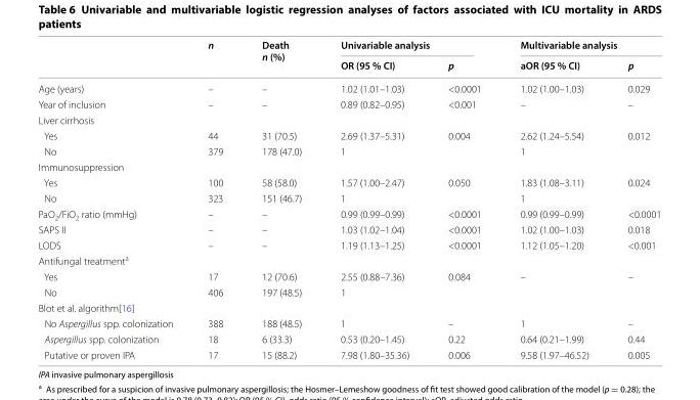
<table><thead><tr><td rowspan="2"></td><td rowspan="2">n</td><td rowspan="2">Death n (%)</td><td colspan="2">Univariable analysis</td><td colspan="2">Multivariable analysis</td></tr><tr><td>OR (95 % CI)</td><td>p</td><td>aOR (95 % CI)</td><td>p</td></tr></thead><tbody><tr><td>Age (years)</td><td>–</td><td>–</td><td>1.02 (1.01–1.03)</td><td>&lt;0.0001</td><td>1.02 (1.00–1.03)</td><td>0.029</td></tr><tr><td>Year of inclusion</td><td>–</td><td>–</td><td>0.89 (0.82–0.95)</td><td>&lt;0.001</td><td>–</td><td>–</td></tr><tr><td colspan="7">Liver cirrhosis</td></tr><tr><td>Yes</td><td>44</td><td>31 (70.5)</td><td>2.69 (1.37–5.31)</td><td>0.004</td><td>2.62 (1.24–5.54)</td><td>0.012</td></tr><tr><td>No</td><td>379</td><td>178 (47.0)</td><td>1</td><td></td><td>1</td><td></td></tr><tr><td colspan="7">Immunosuppression</td></tr><tr><td>Yes</td><td>100</td><td>58 (58.0)</td><td>1.57 (1.00–2.47)</td><td>0.050</td><td>1.83 (1.08–3.11)</td><td>0.024</td></tr><tr><td>No</td><td>323</td><td>151 (46.7)</td><td>1</td><td></td><td>1</td><td></td></tr><tr><td>PaO<sub>2</sub>/FiO<sub>2</sub> ratio (mmHg)</td><td>–</td><td>–</td><td>0.99 (0.99–0.99)</td><td>&lt;0.0001</td><td>0.99 (0.99–0.99)</td><td>&lt;0.0001</td></tr><tr><td>SAPS II</td><td>–</td><td>–</td><td>1.03 (1.02–1.04)</td><td>&lt;0.0001</td><td>1.02 (1.00–1.03)</td><td>0.018</td></tr><tr><td>LODS</td><td>–</td><td>–</td><td>1.19 (1.13–1.25)</td><td>&lt;0.0001</td><td>1.12 (1.05–1.20)</td><td>&lt;0.001</td></tr><tr><td colspan="7">Antifungal treatment<sup>a</sup></td></tr><tr><td>Yes</td><td>17</td><td>12 (70.6)</td><td>2.55 (0.88–7.36)</td><td>0.084</td><td>–</td><td>–</td></tr><tr><td>No</td><td>406</td><td>197 (48.5)</td><td>1</td><td></td><td></td><td></td></tr><tr><td colspan="7">Blot et al. algorithm[16]</td></tr><tr><td>No Aspergillus spp. colonization</td><td>388</td><td>188 (48.5)</td><td>1</td><td>–</td><td>1</td><td>–</td></tr><tr><td>Aspergillus spp. colonization</td><td>18</td><td>6 (33.3)</td><td>0.53 (0.20–1.45)</td><td>0.22</td><td>0.64 (0.21–1.99)</td><td>0.44</td></tr><tr><td>Putative or proven IPA</td><td>17</td><td>15 (88.2)</td><td>7.98 (1.80–35.36)</td><td>0.006</td><td>9.58 (1.97–46.52)</td><td>0.005</td></tr></tbody></table>